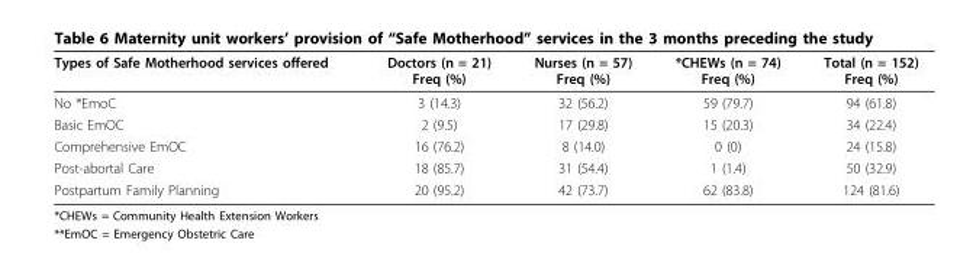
<table><thead><tr><td>Types of Safe Motherhood services offered</td><td>Doctors (n = 21) Freq (%)</td><td>Nurses (n = 57) Freq (%)</td><td>*CHEWs (n = 74) Freq (%)</td><td>Total (n = 152) Freq (%)</td></tr></thead><tbody><tr><td>No *EmoC</td><td>3 (14.3)</td><td>32 (56.2)</td><td>59 (79.7)</td><td>94 (61.8)</td></tr><tr><td>Basic EmOC</td><td>2 (9.5)</td><td>17 (29.8)</td><td>15 (20.3)</td><td>34 (22.4)</td></tr><tr><td>Comprehensive EmOC</td><td>16 (76.2)</td><td>8 (14.0)</td><td>0 (0)</td><td>24 (15.8)</td></tr><tr><td>Post-abortal Care</td><td>18 (85.7)</td><td>31 (54.4)</td><td>1 (1.4)</td><td>50 (32.9)</td></tr><tr><td>Postpartum Family Planning</td><td>20 (95.2)</td><td>42 (73.7)</td><td>62 (83.8)</td><td>124 (81.6)</td></tr></tbody></table>